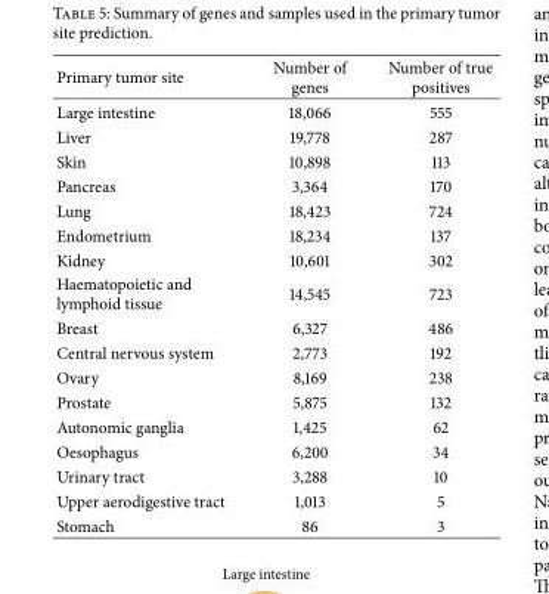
<table><thead><tr><td>Primary tumor site</td><td>Number of genes</td><td>Number of true positives</td></tr></thead><tbody><tr><td>Large intestine</td><td>18,066</td><td>555</td></tr><tr><td>Liver</td><td>19,778</td><td>287</td></tr><tr><td>Skin</td><td>10,898</td><td>113</td></tr><tr><td>Pancreas</td><td>3,364</td><td>170</td></tr><tr><td>Lung</td><td>18,423</td><td>724</td></tr><tr><td>Endometrium</td><td>18,234</td><td>137</td></tr><tr><td>Kidney</td><td>10,601</td><td>302</td></tr><tr><td>Haematopoietic and lymphoid tissue</td><td>14,545</td><td>723</td></tr><tr><td>Breast</td><td>6,327</td><td>486</td></tr><tr><td>Central nervous system</td><td>2,773</td><td>192</td></tr><tr><td>Ovary</td><td>8,169</td><td>238</td></tr><tr><td>Prostate</td><td>5,875</td><td>132</td></tr><tr><td>Autonomic ganglia</td><td>1,425</td><td>62</td></tr><tr><td>Oesophagus</td><td>6,200</td><td>34</td></tr><tr><td>Urinary tract</td><td>3,288</td><td>10</td></tr><tr><td>Upper aerodigestive tract</td><td>1,013</td><td>5</td></tr><tr><td>Stomach</td><td>86</td><td>3</td></tr></tbody></table>